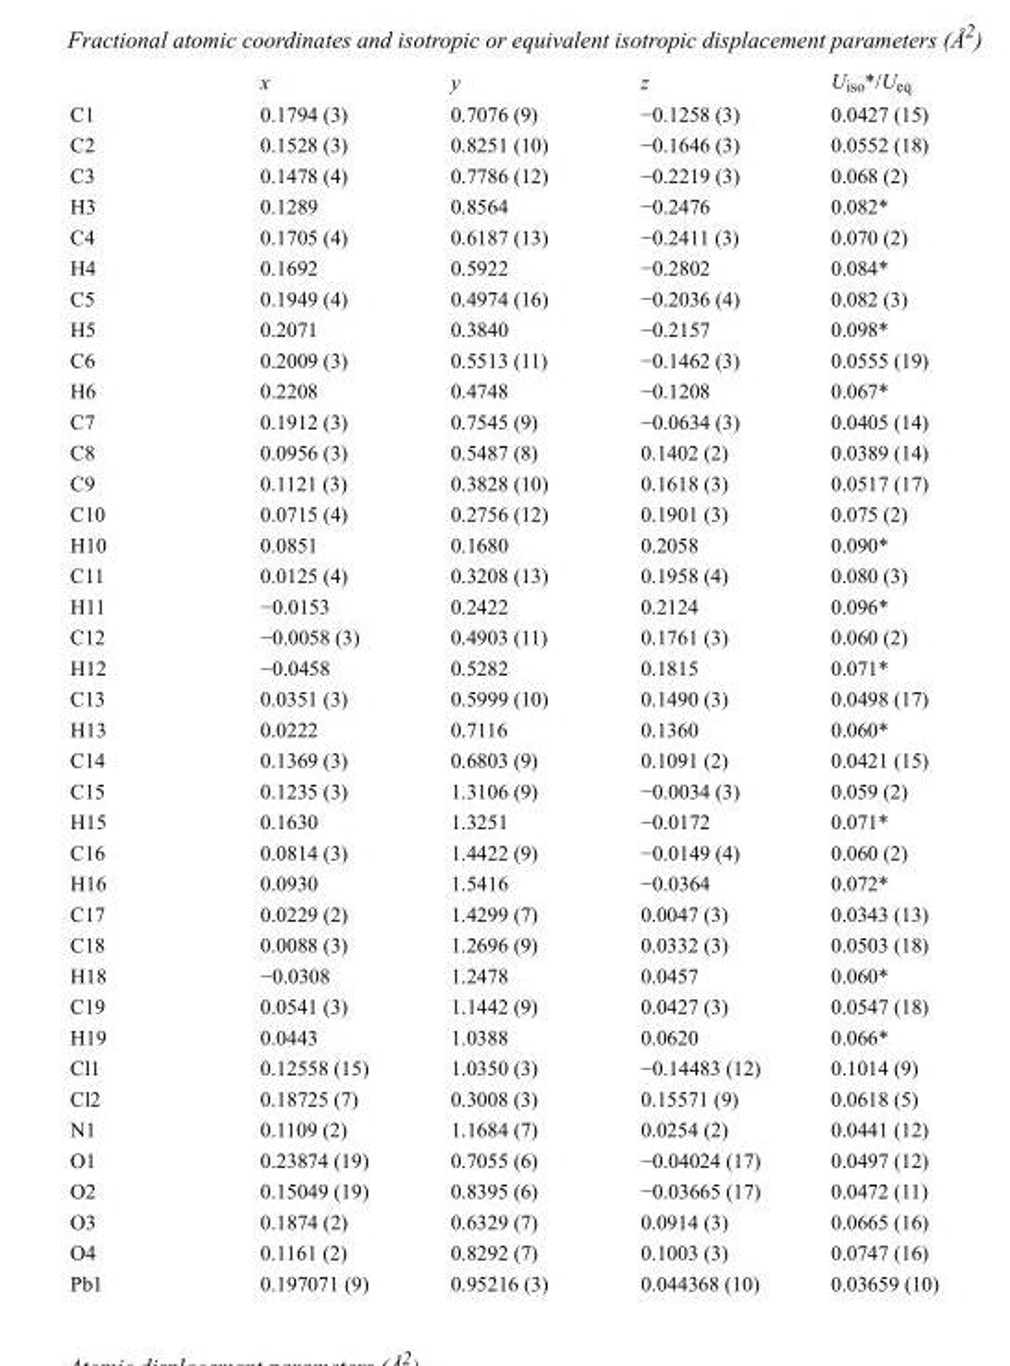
<table><thead><tr><td></td><td>x</td><td>y</td><td>z</td><td>U<sub>iso</sub>*/U<sub>eq</sub></td></tr></thead><tbody><tr><td>C1</td><td>0.1794 (3)</td><td>0.7076 (9)</td><td>−0.1258 (3)</td><td>0.0427 (15)</td></tr><tr><td>C2</td><td>0.1528 (3)</td><td>0.8251 (10)</td><td>−0.1646 (3)</td><td>0.0552 (18)</td></tr><tr><td>C3</td><td>0.1478 (4)</td><td>0.7786 (12)</td><td>−0.2219 (3)</td><td>0.068 (2)</td></tr><tr><td>H3</td><td>0.1289</td><td>0.8564</td><td>−0.2476</td><td>0.082*</td></tr><tr><td>C4</td><td>0.1705 (4)</td><td>0.6187 (13)</td><td>−0.2411 (3)</td><td>0.070 (2)</td></tr><tr><td>H4</td><td>0.1692</td><td>0.5922</td><td>−0.2802</td><td>0.084*</td></tr><tr><td>C5</td><td>0.1949 (4)</td><td>0.4974 (16)</td><td>−0.2036 (4)</td><td>0.082 (3)</td></tr><tr><td>H5</td><td>0.2071</td><td>0.3840</td><td>−0.2157</td><td>0.098*</td></tr><tr><td>C6</td><td>0.2009 (3)</td><td>0.5513 (11)</td><td>−0.1462 (3)</td><td>0.0555 (19)</td></tr><tr><td>H6</td><td>0.2208</td><td>0.4748</td><td>−0.1208</td><td>0.067*</td></tr><tr><td>C7</td><td>0.1912 (3)</td><td>0.7545 (9)</td><td>−0.0634 (3)</td><td>0.0405 (14)</td></tr><tr><td>C8</td><td>0.0956 (3)</td><td>0.5487 (8)</td><td>0.1402 (2)</td><td>0.0389 (14)</td></tr><tr><td>C9</td><td>0.1121 (3)</td><td>0.3828 (10)</td><td>0.1618 (3)</td><td>0.0517 (17)</td></tr><tr><td>C10</td><td>0.0715 (4)</td><td>0.2756 (12)</td><td>0.1901 (3)</td><td>0.075 (2)</td></tr><tr><td>H10</td><td>0.0851</td><td>0.1680</td><td>0.2058</td><td>0.090*</td></tr><tr><td>C11</td><td>0.0125 (4)</td><td>0.3208 (13)</td><td>0.1958 (4)</td><td>0.080 (3)</td></tr><tr><td>H11</td><td>−0.0153</td><td>0.2422</td><td>0.2124</td><td>0.096*</td></tr><tr><td>C12</td><td>−0.0058 (3)</td><td>0.4903 (11)</td><td>0.1761 (3)</td><td>0.060 (2)</td></tr><tr><td>H12</td><td>−0.0458</td><td>0.5282</td><td>0.1815</td><td>0.071*</td></tr><tr><td>C13</td><td>0.0351 (3)</td><td>0.5999 (10)</td><td>0.1490 (3)</td><td>0.0498 (17)</td></tr><tr><td>H13</td><td>0.0222</td><td>0.7116</td><td>0.1360</td><td>0.060*</td></tr><tr><td>C14</td><td>0.1369 (3)</td><td>0.6803 (9)</td><td>0.1091 (2)</td><td>0.0421 (15)</td></tr><tr><td>C15</td><td>0.1235 (3)</td><td>1.3106 (9)</td><td>−0.0034 (3)</td><td>0.059 (2)</td></tr><tr><td>H15</td><td>0.1630</td><td>1.3251</td><td>−0.0172</td><td>0.071*</td></tr><tr><td>C16</td><td>0.0814 (3)</td><td>1.4422 (9)</td><td>−0.0149 (4)</td><td>0.060 (2)</td></tr><tr><td>H16</td><td>0.0930</td><td>1.5416</td><td>−0.0364</td><td>0.072*</td></tr><tr><td>C17</td><td>0.0229 (2)</td><td>1.4299 (7)</td><td>0.0047 (3)</td><td>0.0343 (13)</td></tr><tr><td>C18</td><td>0.0088 (3)</td><td>1.2696 (9)</td><td>0.0332 (3)</td><td>0.0503 (18)</td></tr><tr><td>H18</td><td>−0.0308</td><td>1.2478</td><td>0.0457</td><td>0.060*</td></tr><tr><td>C19</td><td>0.0541 (3)</td><td>1.1442 (9)</td><td>0.0427 (3)</td><td>0.0547 (18)</td></tr><tr><td>H19</td><td>0.0443</td><td>1.0388</td><td>0.0620</td><td>0.066*</td></tr><tr><td>Cl1</td><td>0.12558 (15)</td><td>1.0350 (3)</td><td>−0.14483 (12)</td><td>0.1014 (9)</td></tr><tr><td>Cl2</td><td>0.18725 (7)</td><td>0.3008 (3)</td><td>0.15571 (9)</td><td>0.0618 (5)</td></tr><tr><td>N1</td><td>0.1109 (2)</td><td>1.1684 (7)</td><td>0.0254 (2)</td><td>0.0441 (12)</td></tr><tr><td>O1</td><td>0.23874 (19)</td><td>0.7055 (6)</td><td>−0.04024 (17)</td><td>0.0497 (12)</td></tr><tr><td>O2</td><td>0.15049 (19)</td><td>0.8395 (6)</td><td>−0.03665 (17)</td><td>0.0472 (11)</td></tr><tr><td>O3</td><td>0.1874 (2)</td><td>0.6329 (7)</td><td>0.0914 (3)</td><td>0.0665 (16)</td></tr><tr><td>O4</td><td>0.1161 (2)</td><td>0.8292 (7)</td><td>0.1003 (3)</td><td>0.0747 (16)</td></tr><tr><td>Pb1</td><td>0.197071 (9)</td><td>0.95216 (3)</td><td>0.044368 (10)</td><td>0.03659 (10)</td></tr></tbody></table>